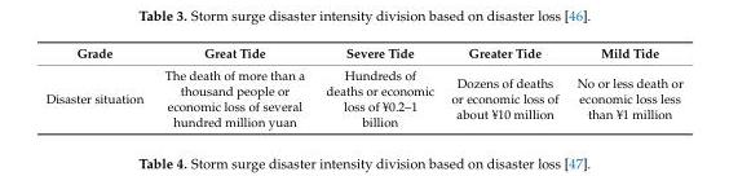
<table><thead><tr><td>Grade</td><td>Great Tide</td><td>Severe Tide</td><td>Greater Tide</td><td>Mild Tide</td></tr></thead><tbody><tr><td>Disaster situation</td><td>The death of more than a thousand people or economic loss of several hundred million yuan</td><td>Hundreds of deaths or economic loss of ¥0.2–1 billion</td><td>Dozens of deaths or economic loss of about ¥10 million</td><td>No or less death or economic loss less than ¥1 million</td></tr></tbody></table>